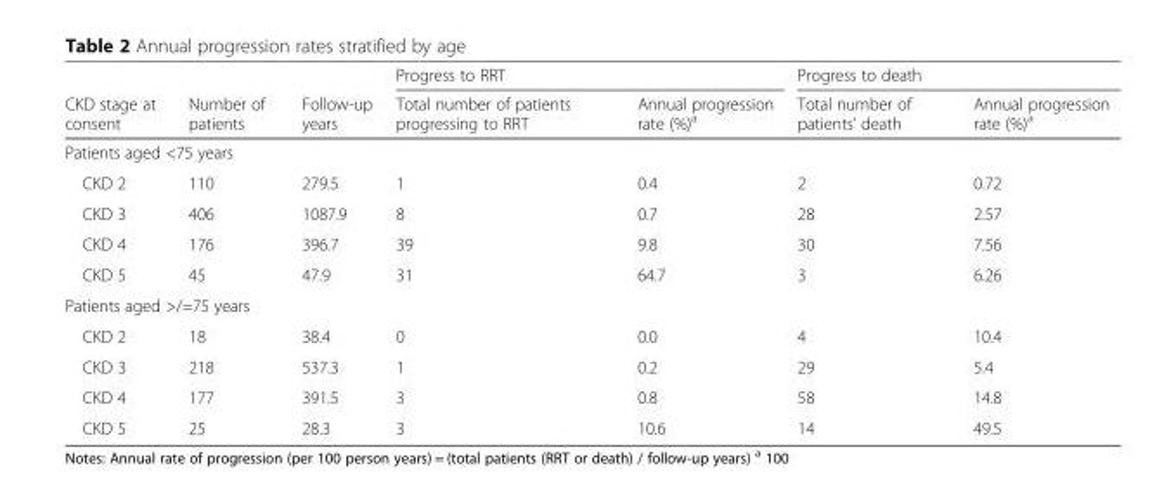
<table><thead><tr><td rowspan="2">CKD stage at consent</td><td rowspan="2">Number of patients</td><td rowspan="2">Follow-up years</td><td colspan="2">Progress to RRT</td><td colspan="2">Progress to death</td></tr><tr><td>Total number of patients progressing to RRT</td><td>Annual progression rate (%)<sup>a</sup></td><td>Total number of patients’ death</td><td>Annual progression rate (%)<sup>a</sup></td></tr></thead><tbody><tr><td colspan="7">Patients aged &lt;75 years</td></tr><tr><td>CKD 2</td><td>110</td><td>279.5</td><td>1</td><td>0.4</td><td>2</td><td>0.72</td></tr><tr><td>CKD 3</td><td>406</td><td>1087.9</td><td>8</td><td>0.7</td><td>28</td><td>2.57</td></tr><tr><td>CKD 4</td><td>176</td><td>396.7</td><td>39</td><td>9.8</td><td>30</td><td>7.56</td></tr><tr><td>CKD 5</td><td>45</td><td>47.9</td><td>31</td><td>64.7</td><td>3</td><td>6.26</td></tr><tr><td colspan="7">Patients aged &gt;/=75 years</td></tr><tr><td>CKD 2</td><td>18</td><td>38.4</td><td>0</td><td>0.0</td><td>4</td><td>10.4</td></tr><tr><td>CKD 3</td><td>218</td><td>537.3</td><td>1</td><td>0.2</td><td>29</td><td>5.4</td></tr><tr><td>CKD 4</td><td>177</td><td>391.5</td><td>3</td><td>0.8</td><td>58</td><td>14.8</td></tr><tr><td>CKD 5</td><td>25</td><td>28.3</td><td>3</td><td>10.6</td><td>14</td><td>49.5</td></tr></tbody></table>